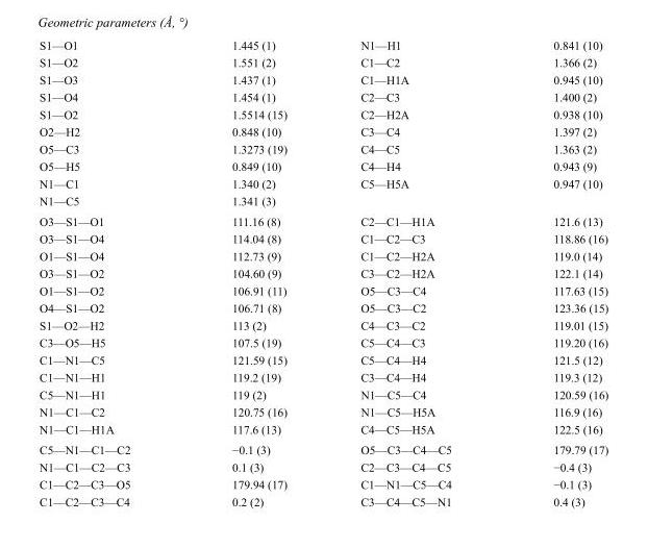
<table><tbody><tr><td>S1—O1</td><td>1.445 (1)</td><td>N1—H1</td><td>0.841 (10)</td></tr><tr><td>S1—O2</td><td>1.551 (2)</td><td>C1—C2</td><td>1.366 (2)</td></tr><tr><td>S1—O3</td><td>1.437 (1)</td><td>C1—H1A</td><td>0.945 (10)</td></tr><tr><td>S1—O4</td><td>1.454 (1)</td><td>C2—C3</td><td>1.400 (2)</td></tr><tr><td>S1—O2</td><td>1.5514 (15)</td><td>C2—H2A</td><td>0.938 (10)</td></tr><tr><td>O2—H2</td><td>0.848 (10)</td><td>C3—C4</td><td>1.397 (2)</td></tr><tr><td>O5—C3</td><td>1.3273 (19)</td><td>C4—C5</td><td>1.363 (2)</td></tr><tr><td>O5—H5</td><td>0.849 (10)</td><td>C4—H4</td><td>0.943 (9)</td></tr><tr><td>N1—C1</td><td>1.340 (2)</td><td>C5—H5A</td><td>0.947 (10)</td></tr><tr><td>N1—C5</td><td>1.341 (3)</td><td></td><td></td></tr><tr><td>O3—S1—O1</td><td>111.16 (8)</td><td>C2—C1—H1A</td><td>121.6 (13)</td></tr><tr><td>O3—S1—O4</td><td>114.04 (8)</td><td>C1—C2—C3</td><td>118.86 (16)</td></tr><tr><td>O1—S1—O4</td><td>112.73 (9)</td><td>C1—C2—H2A</td><td>119.0 (14)</td></tr><tr><td>O3—S1—O2</td><td>104.60 (9)</td><td>C3—C2—H2A</td><td>122.1 (14)</td></tr><tr><td>O1—S1—O2</td><td>106.91 (11)</td><td>O5—C3—C4</td><td>117.63 (15)</td></tr><tr><td>O4—S1—O2</td><td>106.71 (8)</td><td>O5—C3—C2</td><td>123.36 (15)</td></tr><tr><td>S1—O2—H2</td><td>113 (2)</td><td>C4—C3—C2</td><td>119.01 (15)</td></tr><tr><td>C3—O5—H5</td><td>107.5 (19)</td><td>C5—C4—C3</td><td>119.20 (16)</td></tr><tr><td>C1—N1—C5</td><td>121.59 (15)</td><td>C5—C4—H4</td><td>121.5 (12)</td></tr><tr><td>C1—N1—H1</td><td>119.2 (19)</td><td>C3—C4—H4</td><td>119.3 (12)</td></tr><tr><td>C5—N1—H1</td><td>119 (2)</td><td>N1—C5—C4</td><td>120.59 (16)</td></tr><tr><td>N1—C1—C2</td><td>120.75 (16)</td><td>N1—C5—H5A</td><td>116.9 (16)</td></tr><tr><td>N1—C1—H1A</td><td>117.6 (13)</td><td>C4—C5—H5A</td><td>122.5 (16)</td></tr><tr><td>C5—N1—C1—C2</td><td>−0.1 (3)</td><td>O5—C3—C4—C5</td><td>179.79 (17)</td></tr><tr><td>N1—C1—C2—C3</td><td>0.1 (3)</td><td>C2—C3—C4—C5</td><td>−0.4 (3)</td></tr><tr><td>C1—C2—C3—O5</td><td>179.94 (17)</td><td>C1—N1—C5—C4</td><td>−0.1 (3)</td></tr><tr><td>C1—C2—C3—C4</td><td>0.2 (2)</td><td>C3—C4—C5—N1</td><td>0.4 (3)</td></tr></tbody></table>